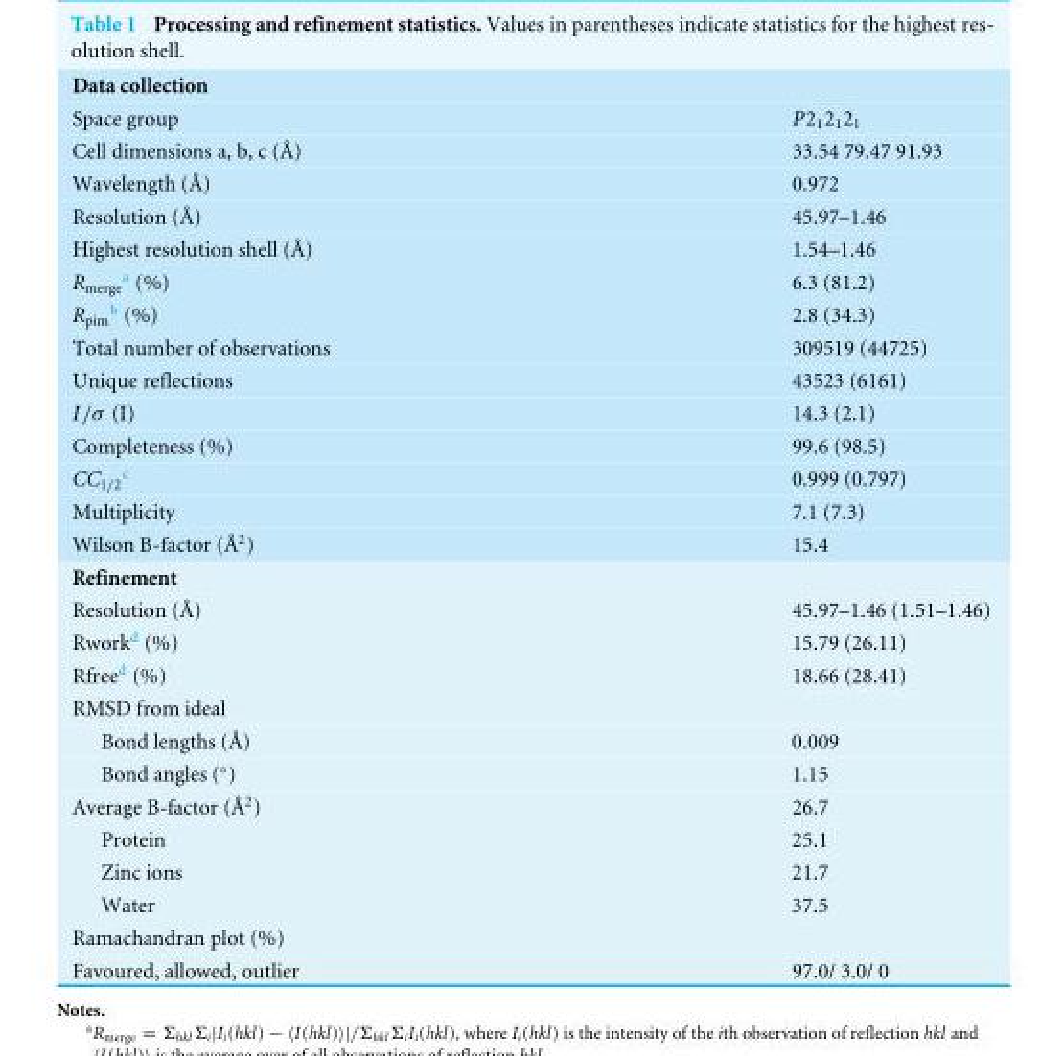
<table><tbody><tr><td colspan="2">Data collection</td></tr><tr><td>Space group</td><td>P2<sub>1</sub>2<sub>1</sub>2<sub>1</sub></td></tr><tr><td>Cell dimensions a, b, c (Å)</td><td>33.54 79.47 91.93</td></tr><tr><td>Wavelength (Å)</td><td>0.972</td></tr><tr><td>Resolution (Å)</td><td>45.97–1.46</td></tr><tr><td>Highest resolution shell (Å)</td><td>1.54–1.46</td></tr><tr><td>R<sub>merge</sub><sup>a</sup> (%)</td><td>6.3 (81.2)</td></tr><tr><td>R<sub>pim</sub><sup>b</sup> (%)</td><td>2.8 (34.3)</td></tr><tr><td>Total number of observations</td><td>309519 (44725)</td></tr><tr><td>Unique reflections</td><td>43523 (6161)</td></tr><tr><td>I/σ (I)</td><td>14.3 (2.1)</td></tr><tr><td>Completeness (%)</td><td>99.6 (98.5)</td></tr><tr><td>CC1/2c</td><td>0.999 (0.797)</td></tr><tr><td>Multiplicity</td><td>7.1 (7.3)</td></tr><tr><td>Wilson B-factor (Å<sup>2</sup>)</td><td>15.4</td></tr><tr><td colspan="2">Refinement</td></tr><tr><td>Resolution (Å)</td><td>45.97–1.46 (1.51–1.46)</td></tr><tr><td>Rwork<sup>d</sup> (%)</td><td>15.79 (26.11)</td></tr><tr><td>Rfree<sup>d</sup> (%)</td><td>18.66 (28.41)</td></tr><tr><td colspan="2">RMSD from ideal</td></tr><tr><td>Bond lengths (Å)</td><td>0.009</td></tr><tr><td>Bond angles (◦)</td><td>1.15</td></tr><tr><td>Average B-factor (Å<sup>2</sup>)</td><td>26.7</td></tr><tr><td>Protein</td><td>25.1</td></tr><tr><td>Zinc ions</td><td>21.7</td></tr><tr><td>Water</td><td>37.5</td></tr><tr><td colspan="2">Ramachandran plot (%)</td></tr><tr><td>Favoured, allowed, outlier</td><td>97.0/ 3.0/ 0</td></tr></tbody></table>